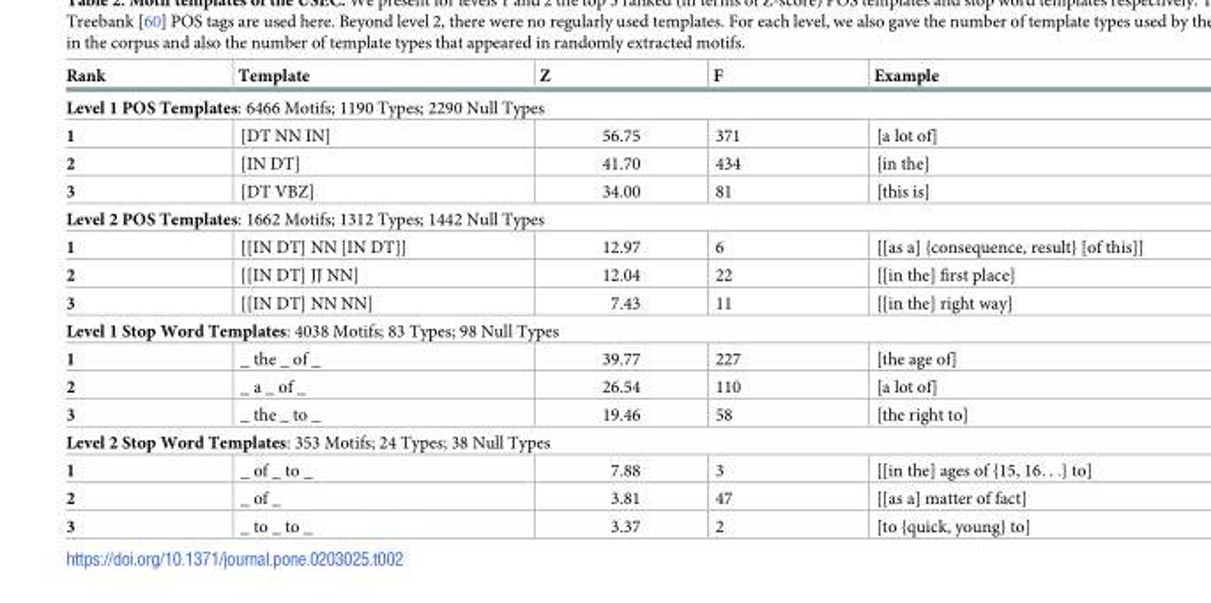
<table><thead><tr><td>Rank</td><td>Template</td><td>Z</td><td>F</td><td>Example</td></tr></thead><tbody><tr><td colspan="5">Level 1 POS Templates: 6466 Motifs; 1190 Types; 2290 Null Types</td></tr><tr><td>1</td><td>[DT NN IN]</td><td>56.75</td><td>371</td><td>[a lot of]</td></tr><tr><td>2</td><td>[IN DT]</td><td>41.70</td><td>434</td><td>[in the]</td></tr><tr><td>3</td><td>[DT VBZ]</td><td>34.00</td><td>81</td><td>[this is]</td></tr><tr><td colspan="5">Level 2 POS Templates: 1662 Motifs; 1312 Types; 1442 Null Types</td></tr><tr><td>1</td><td>[[IN DT] NN [IN DT]]</td><td>12.97</td><td>6</td><td>[[as a] {consequence, result} [of this]]</td></tr><tr><td>2</td><td>[[IN DT] JJ NN]</td><td>12.04</td><td>22</td><td>[[in the] first place]</td></tr><tr><td>3</td><td>[[IN DT] NN NN]</td><td>7.43</td><td>11</td><td>[[in the] right way]</td></tr><tr><td colspan="5">Level 1 Stop Word Templates: 4038 Motifs; 83 Types; 98 Null Types</td></tr><tr><td>1</td><td>_ the _ of _</td><td>39.77</td><td>227</td><td>[the age of]</td></tr><tr><td>2</td><td>_ a _ of _</td><td>26.54</td><td>110</td><td>[a lot of]</td></tr><tr><td>3</td><td>_ the _ to _</td><td>19.46</td><td>58</td><td>[the right to]</td></tr><tr><td colspan="5">Level 2 Stop Word Templates: 353 Motifs; 24 Types; 38 Null Types</td></tr><tr><td>1</td><td>_ of _ to _</td><td>7.88</td><td>3</td><td>[[in the] ages of {15, 16. . .} to]</td></tr><tr><td>2</td><td>_ of _</td><td>3.81</td><td>47</td><td>[[as a] matter of fact]</td></tr><tr><td>3</td><td>_ to _ to _</td><td>3.37</td><td>2</td><td>[to {quick, young} to]</td></tr></tbody></table>